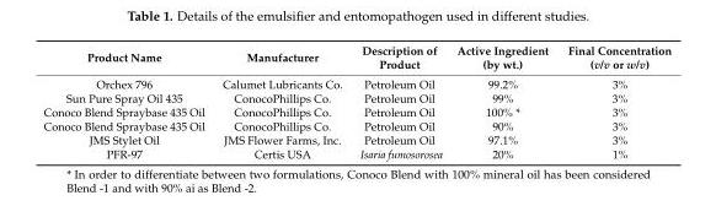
<table><thead><tr><td>Product Name</td><td>Manufacturer</td><td>Description of Product</td><td>Active Ingredient (by wt.)</td><td>Final Concentration (v/v or w/v)</td></tr></thead><tbody><tr><td>Orchex 796</td><td>Calumet Lubricants Co.</td><td>Petroleum Oil</td><td>99.2%</td><td>3%</td></tr><tr><td>Sun Pure Spray Oil 435</td><td>ConocoPhillips Co.</td><td>Petroleum Oil</td><td>99%</td><td>3%</td></tr><tr><td>Conoco Blend Spraybase 435 Oil</td><td>ConocoPhillips Co.</td><td>Petroleum Oil</td><td>100% *</td><td>3%</td></tr><tr><td>Conoco Blend Spraybase 435 Oil</td><td>ConocoPhillips Co.</td><td>Petroleum Oil</td><td>90%</td><td>3%</td></tr><tr><td>JMS Stylet Oil</td><td>JMS Flower Farms, Inc.</td><td>Petroleum Oil</td><td>97.1%</td><td>3%</td></tr><tr><td>PFR-97</td><td>Certis USA</td><td>Isaria fumosorosea</td><td>20%</td><td>1%</td></tr></tbody></table>